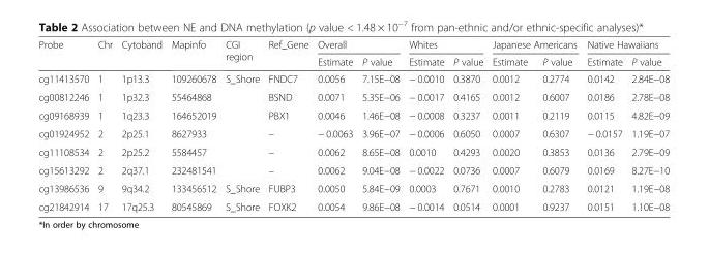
<table><thead><tr><td rowspan="2">Probe</td><td rowspan="2">Chr</td><td rowspan="2">Cytoband</td><td rowspan="2">Mapinfo</td><td rowspan="2">CGI region</td><td rowspan="2">Ref_Gene</td><td colspan="2">Overall</td><td colspan="2">Whites</td><td colspan="2">Japanese Americans</td><td colspan="2">Native Hawaiians</td></tr><tr><td>Estimate</td><td>P value</td><td>Estimate</td><td>P value</td><td>Estimate</td><td>P value</td><td>Estimate</td><td>P value</td></tr></thead><tbody><tr><td>cg11413570</td><td>1</td><td>1p13.3</td><td>109260678</td><td>S_Shore</td><td>FNDC7</td><td>0.0056</td><td>7.15E−08</td><td>− 0.0010</td><td>0.3870</td><td>0.0012</td><td>0.2774</td><td>0.0142</td><td>2.84E−08</td></tr><tr><td>cg00812246</td><td>1</td><td>1p32.3</td><td>55464868</td><td></td><td>BSND</td><td>0.0071</td><td>5.35E−06</td><td>− 0.0017</td><td>0.4165</td><td>0.0012</td><td>0.6007</td><td>0.0186</td><td>2.78E−08</td></tr><tr><td>cg09168939</td><td>1</td><td>1q23.3</td><td>164652019</td><td></td><td>PBX1</td><td>0.0046</td><td>1.46E−08</td><td>− 0.0008</td><td>0.3237</td><td>0.0011</td><td>0.2119</td><td>0.0115</td><td>4.82E−09</td></tr><tr><td>cg01924952</td><td>2</td><td>2p25.1</td><td>8627933</td><td></td><td>–</td><td>− 0.0063</td><td>3.96E−07</td><td>− 0.0006</td><td>0.6050</td><td>0.0007</td><td>0.6307</td><td>− 0.0157</td><td>1.19E−07</td></tr><tr><td>cg11108534</td><td>2</td><td>2p25.2</td><td>5584457</td><td></td><td>–</td><td>0.0062</td><td>8.65E−08</td><td>0.0010</td><td>0.4293</td><td>0.0020</td><td>0.3853</td><td>0.0136</td><td>2.79E−09</td></tr><tr><td>cg15613292</td><td>2</td><td>2q37.1</td><td>232481541</td><td></td><td>–</td><td>0.0062</td><td>9.04E−08</td><td>− 0.0022</td><td>0.0736</td><td>0.0007</td><td>0.6079</td><td>0.0169</td><td>8.27E−10</td></tr><tr><td>cg13986536</td><td>9</td><td>9q34.2</td><td>133456512</td><td>S_Shore</td><td>FUBP3</td><td>0.0050</td><td>5.84E−09</td><td>0.0003</td><td>0.7671</td><td>0.0010</td><td>0.2783</td><td>0.0121</td><td>1.19E−08</td></tr><tr><td>cg21842914</td><td>17</td><td>17q25.3</td><td>80545869</td><td>S_Shore</td><td>FOXK2</td><td>0.0054</td><td>9.86E−08</td><td>− 0.0014</td><td>0.0514</td><td>0.0001</td><td>0.9237</td><td>0.0151</td><td>1.10E−08</td></tr></tbody></table>